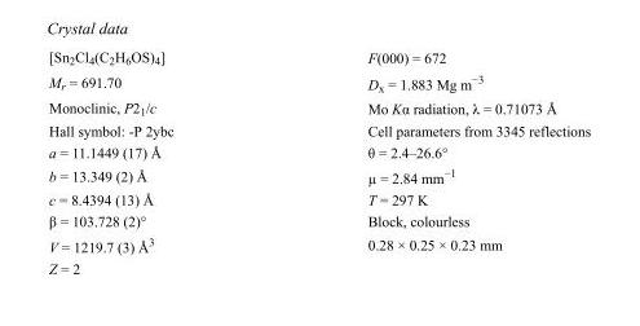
<table><tbody><tr><td>[Sn<sub>2</sub>Cl<sub>4</sub>(C<sub>2</sub>H<sub>6</sub>OS)<sub>4</sub>]</td><td>F(000) = 672</td></tr><tr><td>M<sub>r</sub> = 691.70</td><td>D<sub>x</sub> = 1.883 Mg m<sup>−3</sup></td></tr><tr><td>Monoclinic, P2<sub>1</sub>/c</td><td>Mo Kα radiation, λ = 0.71073 Å</td></tr><tr><td>Hall symbol: -P 2ybc</td><td>Cell parameters from 3345 reflections</td></tr><tr><td>a = 11.1449 (17) Å</td><td>θ = 2.4–26.6°</td></tr><tr><td>b = 13.349 (2) Å</td><td>µ = 2.84 mm<sup>−1</sup></td></tr><tr><td>c = 8.4394 (13) Å</td><td>T = 297 K</td></tr><tr><td>β = 103.728 (2)°</td><td>Block, colourless</td></tr><tr><td>V = 1219.7 (3) Å<sup>3</sup></td><td>0.28 × 0.25 × 0.23 mm</td></tr><tr><td>Z = 2</td><td></td></tr></tbody></table>